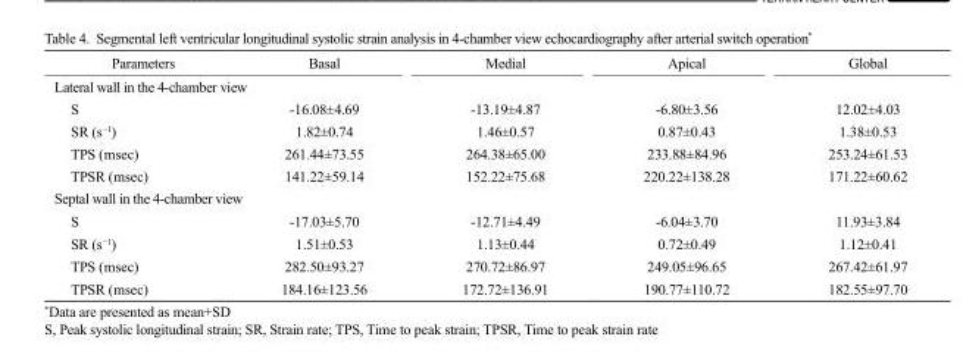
<table><thead><tr><td>Parameters</td><td>Basal</td><td>Medial</td><td>Apical</td><td>Global</td></tr></thead><tbody><tr><td colspan="5">Lateral wall in the 4-chamber view</td></tr><tr><td>S</td><td>-16.08±4.69</td><td>-13.19±4.87</td><td>-6.80±3.56</td><td>12.02±4.03</td></tr><tr><td>SR (s<sup>−1</sup>)</td><td>1.82±0.74</td><td>1.46±0.57</td><td>0.87±0.43</td><td>1.38±0.53</td></tr><tr><td>TPS (msec)</td><td>261.44±73.55</td><td>264.38±65.00</td><td>233.88±84.96</td><td>253.24±61.53</td></tr><tr><td>TPSR (msec)</td><td>141.22±59.14</td><td>152.22±75.68</td><td>220.22±138.28</td><td>171.22±60.62</td></tr><tr><td colspan="5">Septal wall in the 4-chamber view</td></tr><tr><td>S</td><td>-17.03±5.70</td><td>-12.71±4.49</td><td>-6.04±3.70</td><td>11.93±3.84</td></tr><tr><td>SR (s<sup>−1</sup>)</td><td>1.51±0.53</td><td>1.13±0.44</td><td>0.72±0.49</td><td>1.12±0.41</td></tr><tr><td>TPS (msec)</td><td>282.50±93.27</td><td>270.72±86.97</td><td>249.05±96.65</td><td>267.42±61.97</td></tr><tr><td>TPSR (msec)</td><td>184.16±123.56</td><td>172.72±136.91</td><td>190.77±110.72</td><td>182.55±97.70</td></tr></tbody></table>